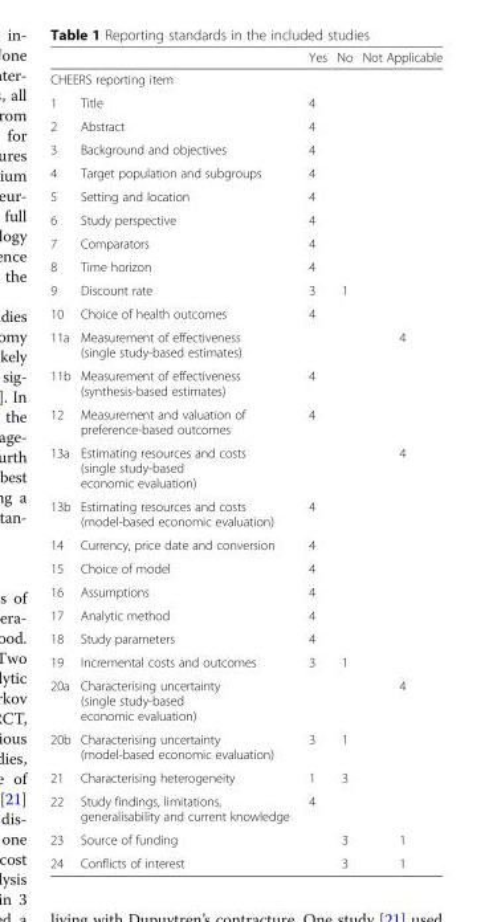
<table><thead><tr><td></td><td></td><td>Yes</td><td>No</td><td>Not Applicable</td></tr></thead><tbody><tr><td colspan="5">CHEERS reporting item</td></tr><tr><td>1</td><td>Title</td><td>4</td><td></td><td></td></tr><tr><td>2</td><td>Abstract</td><td>4</td><td></td><td></td></tr><tr><td>3</td><td>Background and objectives</td><td>4</td><td></td><td></td></tr><tr><td>4</td><td>Target population and subgroups</td><td>4</td><td></td><td></td></tr><tr><td>5</td><td>Setting and location</td><td>4</td><td></td><td></td></tr><tr><td>6</td><td>Study perspective</td><td>4</td><td></td><td></td></tr><tr><td>7</td><td>Comparators</td><td>4</td><td></td><td></td></tr><tr><td>8</td><td>Time horizon</td><td>4</td><td></td><td></td></tr><tr><td>9</td><td>Discount rate</td><td>3</td><td>1</td><td></td></tr><tr><td>10</td><td>Choice of health outcomes</td><td>4</td><td></td><td></td></tr><tr><td>11a</td><td>Measurement of effectiveness (single study-based estimates)</td><td></td><td></td><td>4</td></tr><tr><td>11b</td><td>Measurement of effectiveness (synthesis-based estimates)</td><td>4</td><td></td><td></td></tr><tr><td>12</td><td>Measurement and valuation of preference-based outcomes</td><td>4</td><td></td><td></td></tr><tr><td>13a</td><td>Estimating resources and costs (single study-based economic evaluation)</td><td></td><td></td><td>4</td></tr><tr><td>13b</td><td>Estimating resources and costs (model-based economic evaluation)</td><td>4</td><td></td><td></td></tr><tr><td>14</td><td>Currency, price date and conversion</td><td>4</td><td></td><td></td></tr><tr><td>15</td><td>Choice of model</td><td>4</td><td></td><td></td></tr><tr><td>16</td><td>Assumptions</td><td>4</td><td></td><td></td></tr><tr><td>17</td><td>Analytic method</td><td>4</td><td></td><td></td></tr><tr><td>18</td><td>Study parameters</td><td>4</td><td></td><td></td></tr><tr><td>19</td><td>Incremental costs and outcomes</td><td>3</td><td>1</td><td></td></tr><tr><td>20a</td><td>Characterising uncertainty (single study-based economic evaluation)</td><td></td><td></td><td>4</td></tr><tr><td>20b</td><td>Characterising uncertainty (model-based economic evaluation)</td><td>3</td><td>1</td><td></td></tr><tr><td>21</td><td>Characterising heterogeneity</td><td>1</td><td>3</td><td></td></tr><tr><td>22</td><td>Study findings, limitations, generalisability and current knowledge</td><td>4</td><td></td><td></td></tr><tr><td>23</td><td>Source of funding</td><td></td><td>3</td><td>1</td></tr><tr><td>24</td><td>Conflicts of interest</td><td></td><td>3</td><td>1</td></tr></tbody></table>